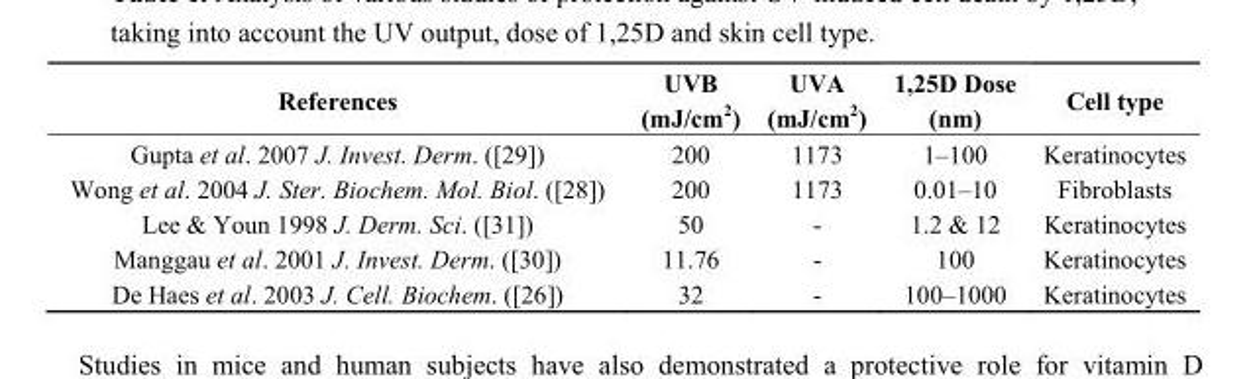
<table><thead><tr><td>References</td><td>UVB (mJ/cm<sup>2</sup>)</td><td>UVA (mJ/cm<sup>2</sup>)</td><td>1,25D Dose (nm)</td><td>Cell type</td></tr></thead><tbody><tr><td>Gupta et al. 2007 J. Invest. Derm. ([29])</td><td>200</td><td>1173</td><td>1–100</td><td>Keratinocytes</td></tr><tr><td>Wong et al. 2004 J. Ster. Biochem. Mol. Biol. ([28])</td><td>200</td><td>1173</td><td>0.01–10</td><td>Fibroblasts</td></tr><tr><td>Lee &amp; Youn 1998 J. Derm. Sci. ([31])</td><td>50</td><td>-</td><td>1.2 &amp; 12</td><td>Keratinocytes</td></tr><tr><td>Manggau et al. 2001 J. Invest. Derm. ([30])</td><td>11.76</td><td>-</td><td>100</td><td>Keratinocytes</td></tr><tr><td>De Haes et al. 2003 J. Cell. Biochem. ([26])</td><td>32</td><td>-</td><td>100–1000</td><td>Keratinocytes</td></tr></tbody></table>